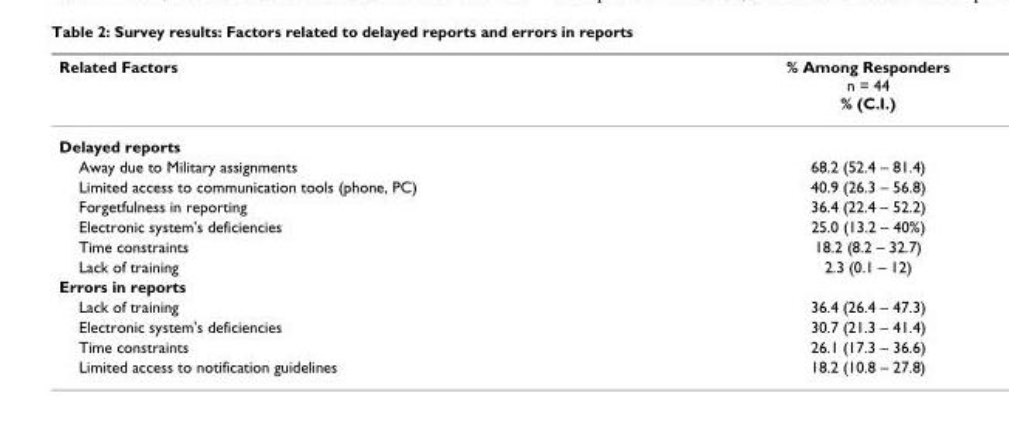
<table><thead><tr><td>Related Factors</td><td>% Among Responders n = 44 % (C.I.)</td></tr></thead><tbody><tr><td colspan="2">Delayed reports</td></tr><tr><td>Away due to Military assignments</td><td>68.2 (52.4 – 81.4)</td></tr><tr><td>Limited access to communication tools (phone, PC)</td><td>40.9 (26.3 – 56.8)</td></tr><tr><td>Forgetfulness in reporting</td><td>36.4 (22.4 – 52.2)</td></tr><tr><td>Electronic system&#x27;s deficiencies</td><td>25.0 (13.2 – 40%)</td></tr><tr><td>Time constraints</td><td>18.2 (8.2 – 32.7)</td></tr><tr><td>Lack of training</td><td>2.3 (0.1 – 12)</td></tr><tr><td colspan="2">Errors in reports</td></tr><tr><td>Lack of training</td><td>36.4 (26.4 – 47.3)</td></tr><tr><td>Electronic system&#x27;s deficiencies</td><td>30.7 (21.3 – 41.4)</td></tr><tr><td>Time constraints</td><td>26.1 (17.3 – 36.6)</td></tr><tr><td>Limited access to notification guidelines</td><td>18.2 (10.8 – 27.8)</td></tr></tbody></table>